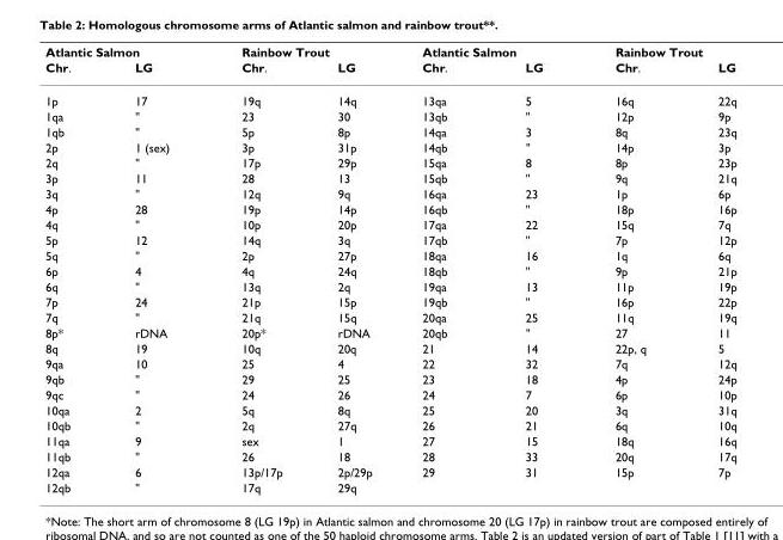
<table><thead><tr><td colspan="2">Atlantic Salmon</td><td colspan="2">Rainbow Trout</td><td colspan="2">Atlantic Salmon</td><td colspan="2">Rainbow Trout</td></tr><tr><td>Chr.</td><td>LG</td><td>Chr.</td><td>LG</td><td>Chr.</td><td>LG</td><td>Chr.</td><td>LG</td></tr></thead><tbody><tr><td>1p</td><td>17</td><td>19q</td><td>14q</td><td>13qa</td><td>5</td><td>16q</td><td>22q</td></tr><tr><td>1qa</td><td>&quot;</td><td>23</td><td>30</td><td>13qb</td><td>&quot;</td><td>12p</td><td>9p</td></tr><tr><td>1qb</td><td>&quot;</td><td>5p</td><td>8p</td><td>14qa</td><td>3</td><td>8q</td><td>23q</td></tr><tr><td>2p</td><td>1 (sex)</td><td>3p</td><td>31p</td><td>14qb</td><td>&quot;</td><td>14p</td><td>3p</td></tr><tr><td>2q</td><td>&quot;</td><td>17p</td><td>29p</td><td>15qa</td><td>8</td><td>8p</td><td>23p</td></tr><tr><td>3p</td><td>11</td><td>28</td><td>13</td><td>15qb</td><td>&quot;</td><td>9q</td><td>21q</td></tr><tr><td>3q</td><td>&quot;</td><td>12q</td><td>9q</td><td>16qa</td><td>23</td><td>1p</td><td>6p</td></tr><tr><td>4p</td><td>28</td><td>19p</td><td>14p</td><td>16qb</td><td>&quot;</td><td>18p</td><td>16p</td></tr><tr><td>4q</td><td>&quot;</td><td>10p</td><td>20p</td><td>17qa</td><td>22</td><td>15q</td><td>7q</td></tr><tr><td>5p</td><td>12</td><td>14q</td><td>3q</td><td>17qb</td><td>&quot;</td><td>7p</td><td>12p</td></tr><tr><td>5q</td><td>&quot;</td><td>2p</td><td>27p</td><td>18qa</td><td>16</td><td>1q</td><td>6q</td></tr><tr><td>6p</td><td>4</td><td>4q</td><td>24q</td><td>18qb</td><td>&quot;</td><td>9p</td><td>21p</td></tr><tr><td>6q</td><td>&quot;</td><td>13q</td><td>2q</td><td>19qa</td><td>13</td><td>11p</td><td>19p</td></tr><tr><td>7p</td><td>24</td><td>21p</td><td>15p</td><td>19qb</td><td>&quot;</td><td>16p</td><td>22p</td></tr><tr><td>7q</td><td>&quot;</td><td>21q</td><td>15q</td><td>20qa</td><td>25</td><td>11q</td><td>19q</td></tr><tr><td>8p*</td><td>rDNA</td><td>20p*</td><td>rDNA</td><td>20qb</td><td>&quot;</td><td>27</td><td>11</td></tr><tr><td>8q</td><td>19</td><td>10q</td><td>20q</td><td>21</td><td>14</td><td>22p, q</td><td>5</td></tr><tr><td>9qa</td><td>10</td><td>25</td><td>4</td><td>22</td><td>32</td><td>7q</td><td>12q</td></tr><tr><td>9qb</td><td>&quot;</td><td>29</td><td>25</td><td>23</td><td>18</td><td>4p</td><td>24p</td></tr><tr><td>9qc</td><td>&quot;</td><td>24</td><td>26</td><td>24</td><td>7</td><td>6p</td><td>10p</td></tr><tr><td>10qa</td><td>2</td><td>5q</td><td>8q</td><td>25</td><td>20</td><td>3q</td><td>31q</td></tr><tr><td>10qb</td><td>&quot;</td><td>2q</td><td>27q</td><td>26</td><td>21</td><td>6q</td><td>10q</td></tr><tr><td>11qa</td><td>9</td><td>sex</td><td>1</td><td>27</td><td>15</td><td>18q</td><td>16q</td></tr><tr><td>11qb</td><td>&quot;</td><td>26</td><td>18</td><td>28</td><td>33</td><td>20q</td><td>17q</td></tr><tr><td>12qa</td><td>6</td><td>13p/17p</td><td>2p/29p</td><td>29</td><td>31</td><td>15p</td><td>7p</td></tr><tr><td>12qb</td><td>&quot;</td><td>17q</td><td>29q</td><td></td><td></td><td></td><td></td></tr></tbody></table>